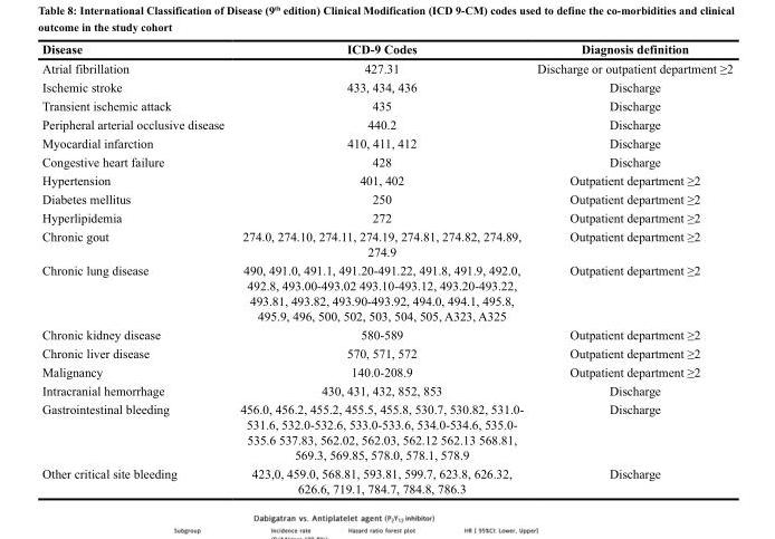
<table><thead><tr><td>Disease</td><td>ICD-9 Codes</td><td>Diagnosis definition</td></tr></thead><tbody><tr><td>Atrial fibrillation</td><td>427.31</td><td>Discharge or outpatient department ≥2</td></tr><tr><td>Ischemic stroke</td><td>433, 434, 436</td><td>Discharge</td></tr><tr><td>Transient ischemic attack</td><td>435</td><td>Discharge</td></tr><tr><td>Peripheral arterial occlusive disease</td><td>440.2</td><td>Discharge</td></tr><tr><td>Myocardial infarction</td><td>410, 411, 412</td><td>Discharge</td></tr><tr><td>Congestive heart failure</td><td>428</td><td>Discharge</td></tr><tr><td>Hypertension</td><td>401, 402</td><td>Outpatient department ≥2</td></tr><tr><td>Diabetes mellitus</td><td>250</td><td>Outpatient department ≥2</td></tr><tr><td>Hyperlipidemia</td><td>272</td><td>Outpatient department ≥2</td></tr><tr><td>Chronic gout</td><td>274.0, 274.10, 274.11, 274.19, 274.81, 274.82, 274.89, 274.9</td><td>Outpatient department ≥2</td></tr><tr><td>Chronic lung disease</td><td>490, 491.0, 491.1, 491.20-491.22, 491.8, 491.9, 492.0, 492.8, 493.00-493.02 493.10-493.12, 493.20-493.22, 493.81, 493.82, 493.90-493.92, 494.0, 494.1, 495.8, 495.9, 496, 500, 502, 503, 504, 505, A323, A325</td><td>Outpatient department ≥2</td></tr><tr><td>Chronic kidney disease</td><td>580-589</td><td>Outpatient department ≥2</td></tr><tr><td>Chronic liver disease</td><td>570, 571, 572</td><td>Outpatient department ≥2</td></tr><tr><td>Malignancy</td><td>140.0-208.9</td><td>Outpatient department ≥2</td></tr><tr><td>Intracranial hemorrhage</td><td>430, 431, 432, 852, 853</td><td>Discharge</td></tr><tr><td>Gastrointestinal bleeding</td><td>456.0, 456.2, 455.2, 455.5, 455.8, 530.7, 530.82, 531.0- 531.6, 532.0-532.6, 533.0-533.6, 534.0-534.6, 535.0- 535.6 537.83, 562.02, 562.03, 562.12 562.13 568.81, 569.3, 569.85, 578.0, 578.1, 578.9</td><td>Discharge</td></tr><tr><td>Other critical site bleeding</td><td>423,0, 459.0, 568.81, 593.81, 599.7, 623.8, 626.32, 626.6, 719.1, 784.7, 784.8, 786.3</td><td>Discharge</td></tr></tbody></table>